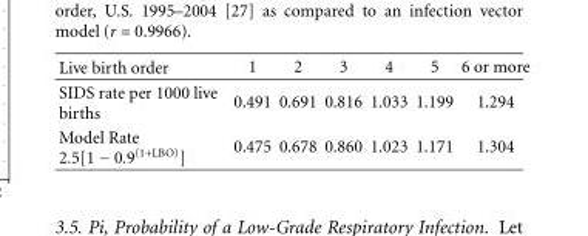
<table><thead><tr><td>Live birth order</td><td>1</td><td>2</td><td>3</td><td>4</td><td>5</td><td>6 or more</td></tr></thead><tbody><tr><td>SIDS rate per 1000 live births</td><td>0.491</td><td>0.691</td><td>0.816</td><td>1.033</td><td>1.199</td><td>1.294</td></tr><tr><td>Model Rate 2.5[1 − 0.9<sup>(1+LBO)</sup>]</td><td>0.475</td><td>0.678</td><td>0.860</td><td>1.023</td><td>1.171</td><td>1.304</td></tr></tbody></table>